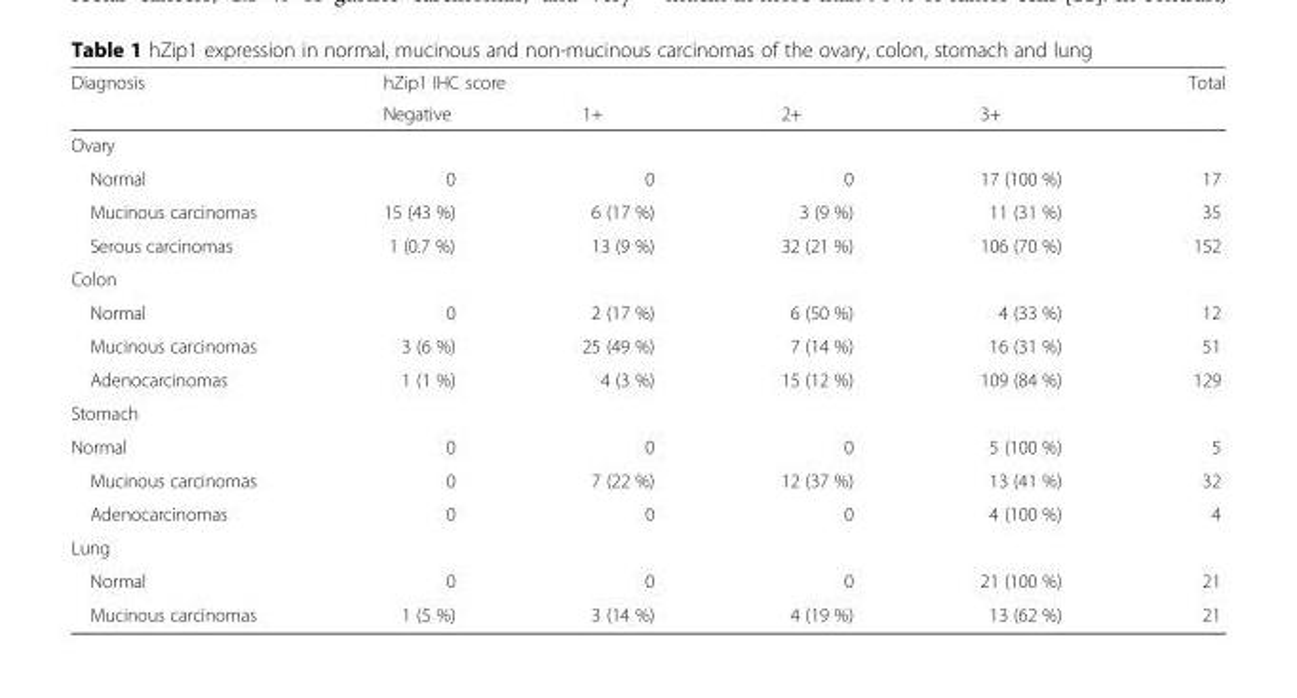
<table><thead><tr><td rowspan="2">Diagnosis</td><td colspan="4">hZip1 IHC score</td><td rowspan="2">Total</td></tr><tr><td>Negative</td><td>1+</td><td>2+</td><td>3+</td></tr></thead><tbody><tr><td colspan="6">Ovary</td></tr><tr><td>Normal</td><td>0</td><td>0</td><td>0</td><td>17 (100 %)</td><td>17</td></tr><tr><td>Mucinous carcinomas</td><td>15 (43 %)</td><td>6 (17 %)</td><td>3 (9 %)</td><td>11 (31 %)</td><td>35</td></tr><tr><td>Serous carcinomas</td><td>1 (0.7 %)</td><td>13 (9 %)</td><td>32 (21 %)</td><td>106 (70 %)</td><td>152</td></tr><tr><td colspan="6">Colon</td></tr><tr><td>Normal</td><td>0</td><td>2 (17 %)</td><td>6 (50 %)</td><td>4 (33 %)</td><td>12</td></tr><tr><td>Mucinous carcinomas</td><td>3 (6 %)</td><td>25 (49 %)</td><td>7 (14 %)</td><td>16 (31 %)</td><td>51</td></tr><tr><td>Adenocarcinomas</td><td>1 (1 %)</td><td>4 (3 %)</td><td>15 (12 %)</td><td>109 (84 %)</td><td>129</td></tr><tr><td colspan="6">Stomach</td></tr><tr><td>Normal</td><td>0</td><td>0</td><td>0</td><td>5 (100 %)</td><td>5</td></tr><tr><td>Mucinous carcinomas</td><td>0</td><td>7 (22 %)</td><td>12 (37 %)</td><td>13 (41 %)</td><td>32</td></tr><tr><td>Adenocarcinomas</td><td>0</td><td>0</td><td>0</td><td>4 (100 %)</td><td>4</td></tr><tr><td colspan="6">Lung</td></tr><tr><td>Normal</td><td>0</td><td>0</td><td>0</td><td>21 (100 %)</td><td>21</td></tr><tr><td>Mucinous carcinomas</td><td>1 (5 %)</td><td>3 (14 %)</td><td>4 (19 %)</td><td>13 (62 %)</td><td>21</td></tr></tbody></table>